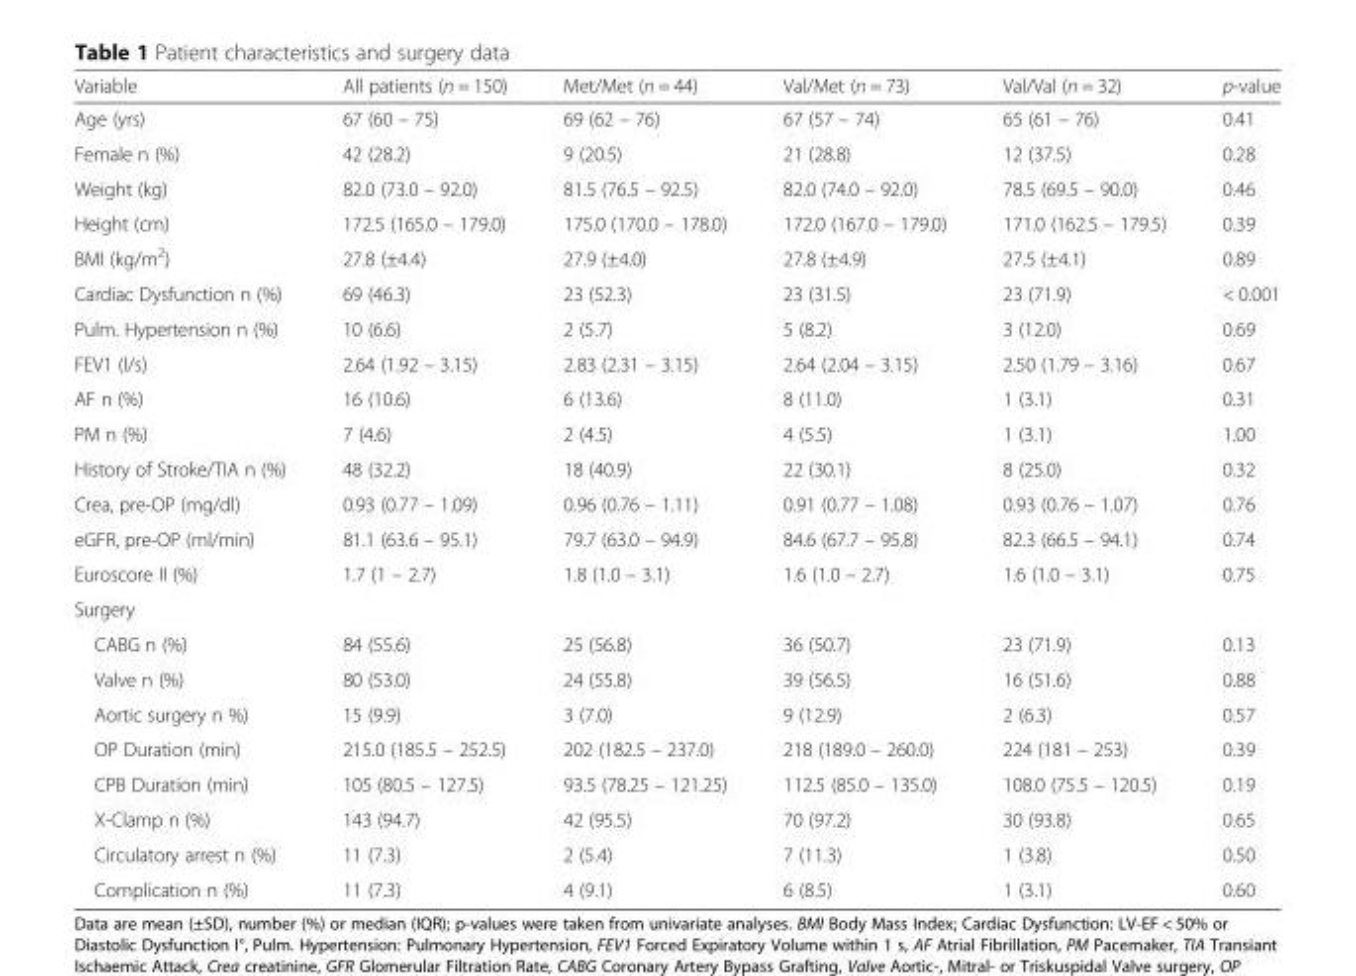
<table><thead><tr><td>Variable</td><td>All patients (n = 150)</td><td>Met/Met (n = 44)</td><td>Val/Met (n = 73)</td><td>Val/Val (n = 32)</td><td>p-value</td></tr></thead><tbody><tr><td>Age (yrs)</td><td>67 (60 – 75)</td><td>69 (62 – 76)</td><td>67 (57 – 74)</td><td>65 (61 – 76)</td><td>0.41</td></tr><tr><td>Female n (%)</td><td>42 (28.2)</td><td>9 (20.5)</td><td>21 (28.8)</td><td>12 (37.5)</td><td>0.28</td></tr><tr><td>Weight (kg)</td><td>82.0 (73.0 – 92.0)</td><td>81.5 (76.5 – 92.5)</td><td>82.0 (74.0 – 92.0)</td><td>78.5 (69.5 – 90.0)</td><td>0.46</td></tr><tr><td>Height (cm)</td><td>172.5 (165.0 – 179.0)</td><td>175.0 (170.0 – 178.0)</td><td>172.0 (167.0 – 179.0)</td><td>171.0 (162.5 – 179.5)</td><td>0.39</td></tr><tr><td>BMI (kg/m<sup>2</sup>)</td><td>27.8 (±4.4)</td><td>27.9 (±4.0)</td><td>27.8 (±4.9)</td><td>27.5 (±4.1)</td><td>0.89</td></tr><tr><td>Cardiac Dysfunction n (%)</td><td>69 (46.3)</td><td>23 (52.3)</td><td>23 (31.5)</td><td>23 (71.9)</td><td>&lt; 0.001</td></tr><tr><td>Pulm. Hypertension n (%)</td><td>10 (6.6)</td><td>2 (5.7)</td><td>5 (8.2)</td><td>3 (12.0)</td><td>0.69</td></tr><tr><td>FEV1 (l/s)</td><td>2.64 (1.92 – 3.15)</td><td>2.83 (2.31 – 3.15)</td><td>2.64 (2.04 – 3.15)</td><td>2.50 (1.79 – 3.16)</td><td>0.67</td></tr><tr><td>AF n (%)</td><td>16 (10.6)</td><td>6 (13.6)</td><td>8 (11.0)</td><td>1 (3.1)</td><td>0.31</td></tr><tr><td>PM n (%)</td><td>7 (4.6)</td><td>2 (4.5)</td><td>4 (5.5)</td><td>1 (3.1)</td><td>1.00</td></tr><tr><td>History of Stroke/TIA n (%)</td><td>48 (32.2)</td><td>18 (40.9)</td><td>22 (30.1)</td><td>8 (25.0)</td><td>0.32</td></tr><tr><td>Crea, pre-OP (mg/dl)</td><td>0.93 (0.77 – 1.09)</td><td>0.96 (0.76 – 1.11)</td><td>0.91 (0.77 – 1.08)</td><td>0.93 (0.76 – 1.07)</td><td>0.76</td></tr><tr><td>eGFR, pre-OP (ml/min)</td><td>81.1 (63.6 – 95.1)</td><td>79.7 (63.0 – 94.9)</td><td>84.6 (67.7 – 95.8)</td><td>82.3 (66.5 – 94.1)</td><td>0.74</td></tr><tr><td>Euroscore II (%)</td><td>1.7 (1 – 2.7)</td><td>1.8 (1.0 – 3.1)</td><td>1.6 (1.0 – 2.7)</td><td>1.6 (1.0 – 3.1)</td><td>0.75</td></tr><tr><td colspan="6">Surgery</td></tr><tr><td>CABG n (%)</td><td>84 (55.6)</td><td>25 (56.8)</td><td>36 (50.7)</td><td>23 (71.9)</td><td>0.13</td></tr><tr><td>Valve n (%)</td><td>80 (53.0)</td><td>24 (55.8)</td><td>39 (56.5)</td><td>16 (51.6)</td><td>0.88</td></tr><tr><td>Aortic surgery n %)</td><td>15 (9.9)</td><td>3 (7.0)</td><td>9 (12.9)</td><td>2 (6.3)</td><td>0.57</td></tr><tr><td>OP Duration (min)</td><td>215.0 (185.5 – 252.5)</td><td>202 (182.5 – 237.0)</td><td>218 (189.0 – 260.0)</td><td>224 (181 – 253)</td><td>0.39</td></tr><tr><td>CPB Duration (min)</td><td>105 (80.5 – 127.5)</td><td>93.5 (78.25 – 121.25)</td><td>112.5 (85.0 – 135.0)</td><td>108.0 (75.5 – 120.5)</td><td>0.19</td></tr><tr><td>X-Clamp n (%)</td><td>143 (94.7)</td><td>42 (95.5)</td><td>70 (97.2)</td><td>30 (93.8)</td><td>0.65</td></tr><tr><td>Circulatory arrest n (%)</td><td>11 (7.3)</td><td>2 (5.4)</td><td>7 (11.3)</td><td>1 (3.8)</td><td>0.50</td></tr><tr><td>Complication n (%)</td><td>11 (7.3)</td><td>4 (9.1)</td><td>6 (8.5)</td><td>1 (3.1)</td><td>0.60</td></tr></tbody></table>